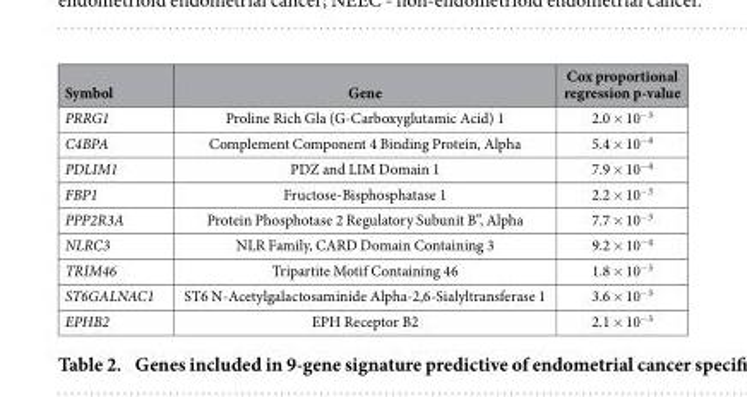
<table><thead><tr><td>Symbol</td><td>Gene</td><td>Cox proportional regression p-value</td></tr></thead><tbody><tr><td>PRRG1</td><td>Proline Rich Gla (G-Carboxyglutamic Acid) 1</td><td>2.0 × 10<sup>−3</sup></td></tr><tr><td>C4BPA</td><td>Complement Component 4 Binding Protein, Alpha</td><td>5.4 × 10<sup>−4</sup></td></tr><tr><td>PDLIM1</td><td>PDZ and LIM Domain 1</td><td>7.9 × 10<sup>−4</sup></td></tr><tr><td>FBP1</td><td>Fructose-Bisphosphatase 1</td><td>2.2 × 10<sup>−3</sup></td></tr><tr><td>PPP2R3A</td><td>Protein Phosphotase 2 Regulatory Subunit B”, Alpha</td><td>7.7 × 10<sup>−3</sup></td></tr><tr><td>NLRC3</td><td>NLR Family, CARD Domain Containing 3</td><td>9.2 × 10<sup>−4</sup></td></tr><tr><td>TRIM46</td><td>Tripartite Motif Containing 46</td><td>1.8 × 10<sup>−3</sup></td></tr><tr><td>ST6GALNAC1</td><td>ST6 N-Acetylgalactosaminide Alpha-2,6-Sialyltransferase 1</td><td>3.6 × 10<sup>−3</sup></td></tr><tr><td>EPHB2</td><td>EPH Receptor B2</td><td>2.1 × 10<sup>−3</sup></td></tr></tbody></table>